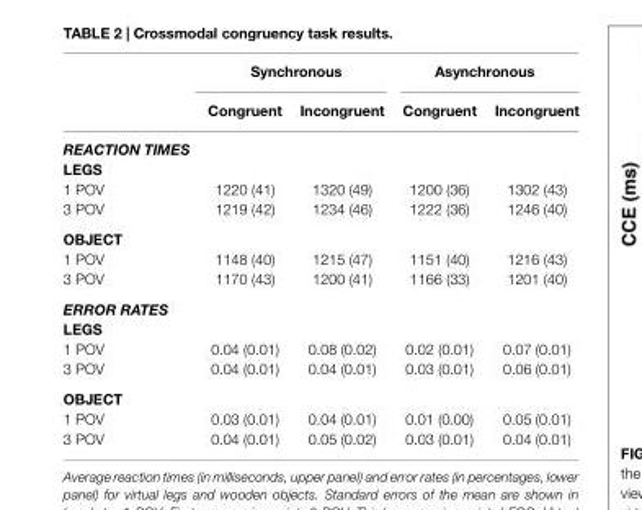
<table><thead><tr><td rowspan="2"></td><td colspan="2">Synchronous</td><td colspan="2">Asynchronous</td></tr><tr><td>Congruent</td><td>Incongruent</td><td>Congruent</td><td>Incongruent</td></tr></thead><tbody><tr><td colspan="5">REACTION TIMES</td></tr><tr><td colspan="5">LEGS</td></tr><tr><td>1 POV</td><td>1220 (41)</td><td>1320 (49)</td><td>1200 (36)</td><td>1302 (43)</td></tr><tr><td>3 POV</td><td>1219 (42)</td><td>1234 (46)</td><td>1222 (36)</td><td>1246 (40)</td></tr><tr><td colspan="5">OBJECT</td></tr><tr><td>1 POV</td><td>1148 (40)</td><td>1215 (47)</td><td>1151 (40)</td><td>1216 (43)</td></tr><tr><td>3 POV</td><td>1170 (43)</td><td>1200 (41)</td><td>1166 (33)</td><td>1201 (40)</td></tr><tr><td colspan="5">ERROR RATES</td></tr><tr><td colspan="5">LEGS</td></tr><tr><td>1 POV</td><td>0.04 (0.01)</td><td>0.08 (0.02)</td><td>0.02 (0.01)</td><td>0.07 (0.01)</td></tr><tr><td>3 POV</td><td>0.04 (0.01)</td><td>0.04 (0.01)</td><td>0.03 (0.01)</td><td>0.06 (0.01)</td></tr><tr><td colspan="5">OBJECT</td></tr><tr><td>1 POV</td><td>0.03 (0.01)</td><td>0.04 (0.01)</td><td>0.01 (0.00)</td><td>0.05 (0.01)</td></tr><tr><td>3 POV</td><td>0.04 (0.01)</td><td>0.05 (0.02)</td><td>0.03 (0.01)</td><td>0.04 (0.01)</td></tr></tbody></table>